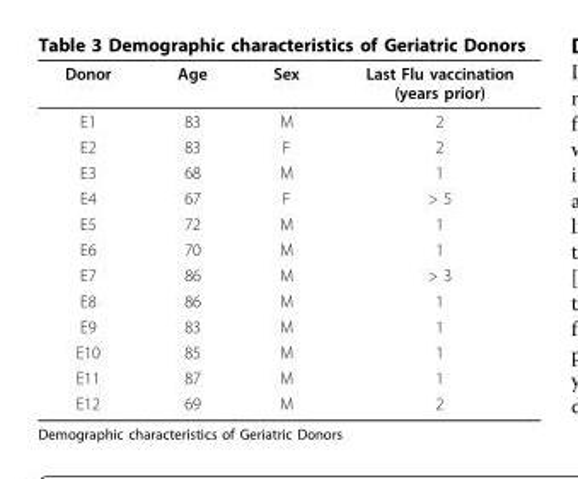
<table><thead><tr><td>Donor</td><td>Age</td><td>Sex</td><td>Last Flu vaccination (years prior)</td></tr></thead><tbody><tr><td>E1</td><td>83</td><td>M</td><td>2</td></tr><tr><td>E2</td><td>83</td><td>F</td><td>2</td></tr><tr><td>E3</td><td>68</td><td>M</td><td>1</td></tr><tr><td>E4</td><td>67</td><td>F</td><td>&gt; 5</td></tr><tr><td>E5</td><td>72</td><td>M</td><td>1</td></tr><tr><td>E6</td><td>70</td><td>M</td><td>1</td></tr><tr><td>E7</td><td>86</td><td>M</td><td>&gt; 3</td></tr><tr><td>E8</td><td>86</td><td>M</td><td>1</td></tr><tr><td>E9</td><td>83</td><td>M</td><td>1</td></tr><tr><td>E10</td><td>85</td><td>M</td><td>1</td></tr><tr><td>E11</td><td>87</td><td>M</td><td>1</td></tr><tr><td>E12</td><td>69</td><td>M</td><td>2</td></tr></tbody></table>